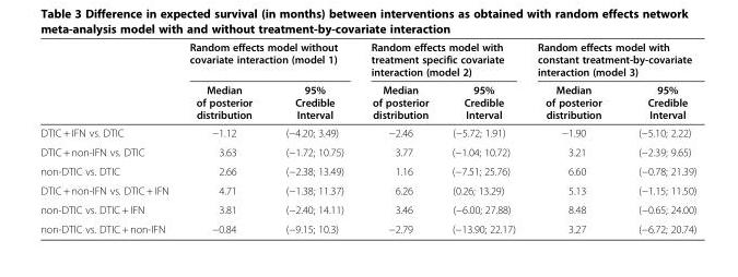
<table><thead><tr><td rowspan="2"></td><td colspan="2">Random effects model without covariate interaction (model 1)</td><td colspan="2">Random effects model with treatment specific covariate interaction (model 2)</td><td colspan="2">Random effects model with constant treatment-by-covariate interaction (model 3)</td></tr><tr><td>Median of posterior distribution</td><td>95% Credible Interval</td><td>Median of posterior distribution</td><td>95% Credible Interval</td><td>Median of posterior distribution</td><td>95% Credible Interval</td></tr></thead><tbody><tr><td>DTIC + IFN vs. DTIC</td><td>−1.12</td><td>(−4.20; 3.49)</td><td>−2.46</td><td>(−5.72; 1.91)</td><td>−1.90</td><td>(−5.10; 2.22)</td></tr><tr><td>DTIC + non-IFN vs. DTIC</td><td>3.63</td><td>(−1.72; 10.75)</td><td>3.77</td><td>(−1.04; 10.72)</td><td>3.21</td><td>(−2.39; 9.65)</td></tr><tr><td>non-DTIC vs. DTIC</td><td>2.66</td><td>(−2.38; 13.49)</td><td>1.16</td><td>(−7.51; 25.76)</td><td>6.60</td><td>(−0.78; 21.39)</td></tr><tr><td>DTIC + non-IFN vs. DTIC + IFN</td><td>4.71</td><td>(−1.38; 11.37)</td><td>6.26</td><td>(0.26; 13.29)</td><td>5.13</td><td>(−1.15; 11.50)</td></tr><tr><td>non-DTIC vs. DTIC + IFN</td><td>3.81</td><td>(−2.40; 14.11)</td><td>3.46</td><td>(−6.00; 27.88)</td><td>8.48</td><td>(−0.65; 24.00)</td></tr><tr><td>non-DTIC vs. DTIC + non-IFN</td><td>−0.84</td><td>(−9.15; 10.3)</td><td>−2.79</td><td>(−13.90; 22.17)</td><td>3.27</td><td>(−6.72; 20.74)</td></tr></tbody></table>